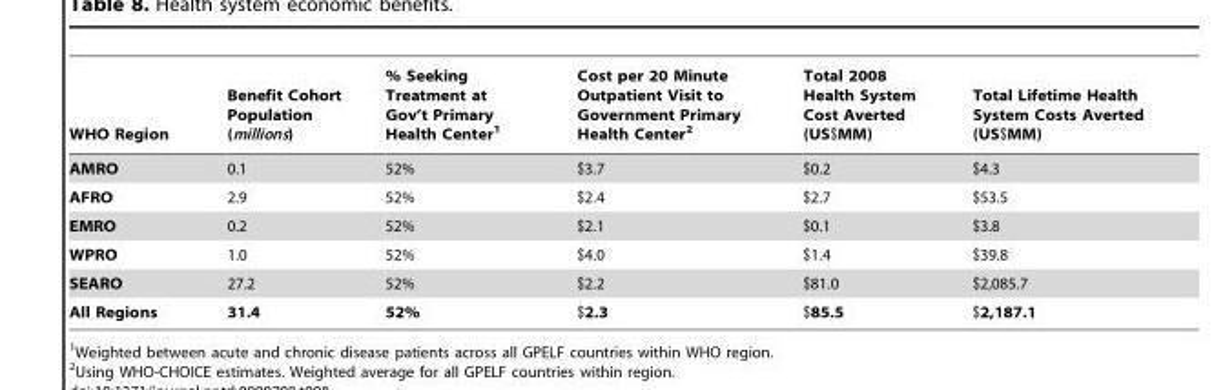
<table><thead><tr><td>WHO Region</td><td>Benefit Cohort Population (millions)</td><td>% Seeking Treatment at Gov’t Primary Health Center<sup>1</sup></td><td>Cost per 20 Minute Outpatient Visit to Government Primary Health Center<sup>2</sup></td><td>Total 2008 Health System Cost Averted (US$MM)</td><td>Total Lifetime Health System Costs Averted (US$MM)</td></tr></thead><tbody><tr><td>AMRO</td><td>0.1</td><td>52%</td><td>$3.7</td><td>$0.2</td><td>$4.3</td></tr><tr><td>AFRO</td><td>2.9</td><td>52%</td><td>$2.4</td><td>$2.7</td><td>$53.5</td></tr><tr><td>EMRO</td><td>0.2</td><td>52%</td><td>$2.1</td><td>$0.1</td><td>$3.8</td></tr><tr><td>WPRO</td><td>1.0</td><td>52%</td><td>$4.0</td><td>$1.4</td><td>$39.8</td></tr><tr><td>SEARO</td><td>27.2</td><td>52%</td><td>$2.2</td><td>$81.0</td><td>$2,085.7</td></tr><tr><td>All Regions</td><td>31.4</td><td>52%</td><td>$2.3</td><td>$85.5</td><td>$2,187.1</td></tr></tbody></table>